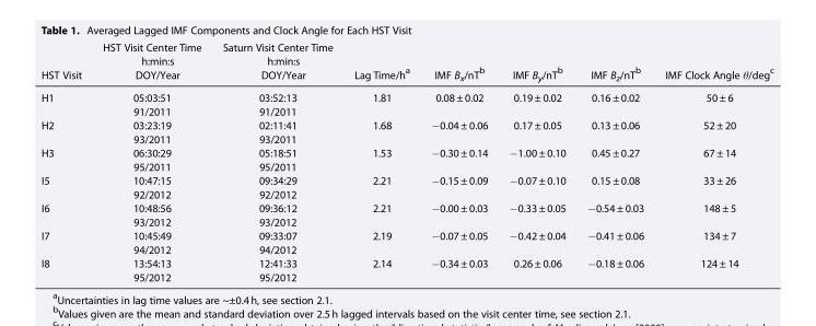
<table><thead><tr><td>HST Visit</td><td>HST Visit Center Time h:min:s DOY/Year</td><td>Saturn Visit Center Time h:min:s DOY/Year</td><td>Lag Time/h<sup>a</sup></td><td>IMF B<sub>x</sub>/nT<sup>b</sup></td><td>IMF B<sub>y</sub>/nT<sup>b</sup></td><td>IMF B<sub>z</sub>/nT<sup>b</sup></td><td>IMF Clock Angle θ/deg<sup>c</sup></td></tr></thead><tbody><tr><td rowspan="2">H1</td><td>05:03:51</td><td>03:52:13</td><td rowspan="2">1.81</td><td rowspan="2">0.08 ± 0.02</td><td rowspan="2">0.19 ± 0.02</td><td rowspan="2">0.16 ± 0.02</td><td rowspan="2">50 ± 6</td></tr><tr><td>91/2011</td><td>91/2011</td></tr><tr><td rowspan="2">H2</td><td>03:23:19</td><td>02:11:41</td><td rowspan="2">1.68</td><td rowspan="2">−0.04 ± 0.06</td><td rowspan="2">0.17 ± 0.05</td><td rowspan="2">0.13 ± 0.06</td><td rowspan="2">52 ± 20</td></tr><tr><td>93/2011</td><td>93/2011</td></tr><tr><td rowspan="2">H3</td><td>06:30:29</td><td>05:18:51</td><td rowspan="2">1.53</td><td rowspan="2">−0.30 ± 0.14</td><td rowspan="2">−1.00 ± 0.10</td><td rowspan="2">0.45 ± 0.27</td><td rowspan="2">67 ± 14</td></tr><tr><td>95/2011</td><td>95/2011</td></tr><tr><td rowspan="2">I5</td><td>10:47:15</td><td>09:34:29</td><td rowspan="2">2.21</td><td rowspan="2">−0.15 ± 0.09</td><td rowspan="2">−0.07 ± 0.10</td><td rowspan="2">0.15 ± 0.08</td><td rowspan="2">33 ± 26</td></tr><tr><td>92/2012</td><td>92/2012</td></tr><tr><td rowspan="2">I6</td><td>10:48:56</td><td>09:36:12</td><td rowspan="2">2.21</td><td rowspan="2">−0.00 ± 0.03</td><td rowspan="2">−0.33 ± 0.05</td><td rowspan="2">−0.54 ± 0.03</td><td rowspan="2">148 ± 5</td></tr><tr><td>93/2012</td><td>93/2012</td></tr><tr><td rowspan="2">I7</td><td>10:45:49</td><td>09:33:07</td><td rowspan="2">2.19</td><td rowspan="2">−0.07 ± 0.05</td><td rowspan="2">−0.42 ± 0.04</td><td rowspan="2">−0.41 ± 0.06</td><td rowspan="2">134 ± 7</td></tr><tr><td>94/2012</td><td>94/2012</td></tr><tr><td rowspan="2">I8</td><td>13:54:13</td><td>12:41:33</td><td rowspan="2">2.14</td><td rowspan="2">−0.34 ± 0.03</td><td rowspan="2">0.26 ± 0.06</td><td rowspan="2">−0.18 ± 0.06</td><td rowspan="2">124 ± 14</td></tr><tr><td>95/2012</td><td>95/2012</td></tr></tbody></table>